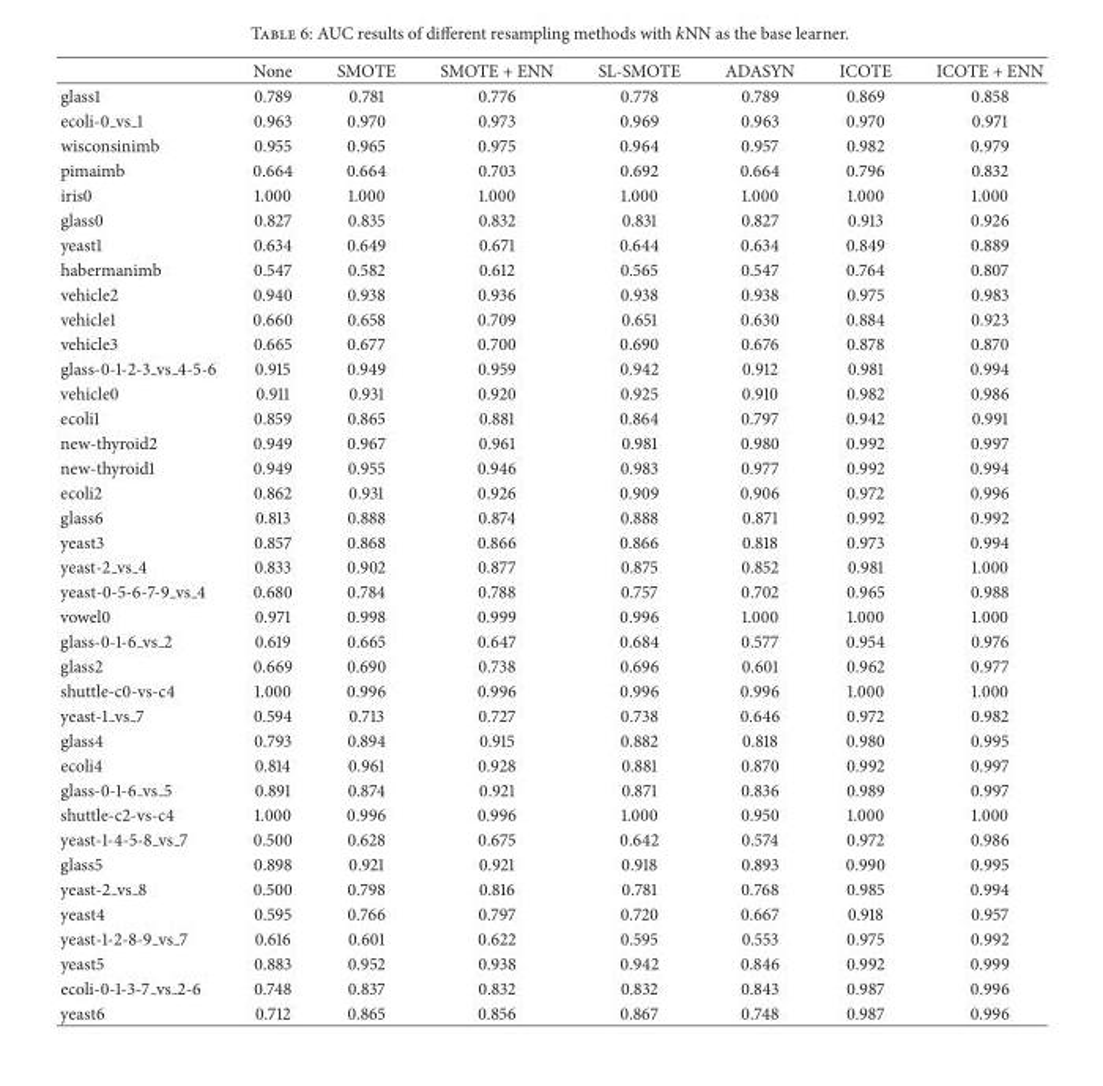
<table><thead><tr><td></td><td>None</td><td>SMOTE</td><td>SMOTE + ENN</td><td>SL-SMOTE</td><td>ADASYN</td><td>ICOTE</td><td>ICOTE + ENN</td></tr></thead><tbody><tr><td>glass1</td><td>0.789</td><td>0.781</td><td>0.776</td><td>0.778</td><td>0.789</td><td>0.869</td><td>0.858</td></tr><tr><td>ecoli-0 <sub>vs</sub> 1</td><td>0.963</td><td>0.970</td><td>0.973</td><td>0.969</td><td>0.963</td><td>0.970</td><td>0.971</td></tr><tr><td>wisconsinimb</td><td>0.955</td><td>0.965</td><td>0.975</td><td>0.964</td><td>0.957</td><td>0.982</td><td>0.979</td></tr><tr><td>pimaimb</td><td>0.664</td><td>0.664</td><td>0.703</td><td>0.692</td><td>0.664</td><td>0.796</td><td>0.832</td></tr><tr><td>iris0</td><td>1.000</td><td>1.000</td><td>1.000</td><td>1.000</td><td>1.000</td><td>1.000</td><td>1.000</td></tr><tr><td>glass0</td><td>0.827</td><td>0.835</td><td>0.832</td><td>0.831</td><td>0.827</td><td>0.913</td><td>0.926</td></tr><tr><td>yeast1</td><td>0.634</td><td>0.649</td><td>0.671</td><td>0.644</td><td>0.634</td><td>0.849</td><td>0.889</td></tr><tr><td>habermanimb</td><td>0.547</td><td>0.582</td><td>0.612</td><td>0.565</td><td>0.547</td><td>0.764</td><td>0.807</td></tr><tr><td>vehicle2</td><td>0.940</td><td>0.938</td><td>0.936</td><td>0.938</td><td>0.938</td><td>0.975</td><td>0.983</td></tr><tr><td>vehicle1</td><td>0.660</td><td>0.658</td><td>0.709</td><td>0.651</td><td>0.630</td><td>0.884</td><td>0.923</td></tr><tr><td>vehicle3</td><td>0.665</td><td>0.677</td><td>0.700</td><td>0.690</td><td>0.676</td><td>0.878</td><td>0.870</td></tr><tr><td>glass-0-1-2-3 <sub>vs</sub> 4-5-6</td><td>0.915</td><td>0.949</td><td>0.959</td><td>0.942</td><td>0.912</td><td>0.981</td><td>0.994</td></tr><tr><td>vehicle0</td><td>0.911</td><td>0.931</td><td>0.920</td><td>0.925</td><td>0.910</td><td>0.982</td><td>0.986</td></tr><tr><td>ecoli1</td><td>0.859</td><td>0.865</td><td>0.881</td><td>0.864</td><td>0.797</td><td>0.942</td><td>0.991</td></tr><tr><td>new-thyroid2</td><td>0.949</td><td>0.967</td><td>0.961</td><td>0.981</td><td>0.980</td><td>0.992</td><td>0.997</td></tr><tr><td>new-thyroid1</td><td>0.949</td><td>0.955</td><td>0.946</td><td>0.983</td><td>0.977</td><td>0.992</td><td>0.994</td></tr><tr><td>ecoli2</td><td>0.862</td><td>0.931</td><td>0.926</td><td>0.909</td><td>0.906</td><td>0.972</td><td>0.996</td></tr><tr><td>glass6</td><td>0.813</td><td>0.888</td><td>0.874</td><td>0.888</td><td>0.871</td><td>0.992</td><td>0.992</td></tr><tr><td>yeast3</td><td>0.857</td><td>0.868</td><td>0.866</td><td>0.866</td><td>0.818</td><td>0.973</td><td>0.994</td></tr><tr><td>yeast-2 <sub>vs</sub> 4</td><td>0.833</td><td>0.902</td><td>0.877</td><td>0.875</td><td>0.852</td><td>0.981</td><td>1.000</td></tr><tr><td>yeast-0-5-6-7-9 <sub>vs</sub> 4</td><td>0.680</td><td>0.784</td><td>0.788</td><td>0.757</td><td>0.702</td><td>0.965</td><td>0.988</td></tr><tr><td>vowel0</td><td>0.971</td><td>0.998</td><td>0.999</td><td>0.996</td><td>1.000</td><td>1.000</td><td>1.000</td></tr><tr><td>glass-0-1-6 <sub>vs</sub> 2</td><td>0.619</td><td>0.665</td><td>0.647</td><td>0.684</td><td>0.577</td><td>0.954</td><td>0.976</td></tr><tr><td>glass2</td><td>0.669</td><td>0.690</td><td>0.738</td><td>0.696</td><td>0.601</td><td>0.962</td><td>0.977</td></tr><tr><td>shuttle-c0-vs-c4</td><td>1.000</td><td>0.996</td><td>0.996</td><td>0.996</td><td>0.996</td><td>1.000</td><td>1.000</td></tr><tr><td>yeast-1 <sub>vs</sub> 7</td><td>0.594</td><td>0.713</td><td>0.727</td><td>0.738</td><td>0.646</td><td>0.972</td><td>0.982</td></tr><tr><td>glass4</td><td>0.793</td><td>0.894</td><td>0.915</td><td>0.882</td><td>0.818</td><td>0.980</td><td>0.995</td></tr><tr><td>ecoli4</td><td>0.814</td><td>0.961</td><td>0.928</td><td>0.881</td><td>0.870</td><td>0.992</td><td>0.997</td></tr><tr><td>glass-0-1-6 <sub>vs</sub> 5</td><td>0.891</td><td>0.874</td><td>0.921</td><td>0.871</td><td>0.836</td><td>0.989</td><td>0.997</td></tr><tr><td>shuttle-c2-vs-c4</td><td>1.000</td><td>0.996</td><td>0.996</td><td>1.000</td><td>0.950</td><td>1.000</td><td>1.000</td></tr><tr><td>yeast-1-4-5-8 <sub>vs</sub> 7</td><td>0.500</td><td>0.628</td><td>0.675</td><td>0.642</td><td>0.574</td><td>0.972</td><td>0.986</td></tr><tr><td>glass5</td><td>0.898</td><td>0.921</td><td>0.921</td><td>0.918</td><td>0.893</td><td>0.990</td><td>0.995</td></tr><tr><td>yeast-2 <sub>vs</sub> 8</td><td>0.500</td><td>0.798</td><td>0.816</td><td>0.781</td><td>0.768</td><td>0.985</td><td>0.994</td></tr><tr><td>yeast4</td><td>0.595</td><td>0.766</td><td>0.797</td><td>0.720</td><td>0.667</td><td>0.918</td><td>0.957</td></tr><tr><td>yeast-1-2-8-9 <sub>vs</sub> 7</td><td>0.616</td><td>0.601</td><td>0.622</td><td>0.595</td><td>0.553</td><td>0.975</td><td>0.992</td></tr><tr><td>yeast5</td><td>0.883</td><td>0.952</td><td>0.938</td><td>0.942</td><td>0.846</td><td>0.992</td><td>0.999</td></tr><tr><td>ecoli-0-1-3-7 <sub>vs</sub> 2-6</td><td>0.748</td><td>0.837</td><td>0.832</td><td>0.832</td><td>0.843</td><td>0.987</td><td>0.996</td></tr><tr><td>yeast6</td><td>0.712</td><td>0.865</td><td>0.856</td><td>0.867</td><td>0.748</td><td>0.987</td><td>0.996</td></tr></tbody></table>